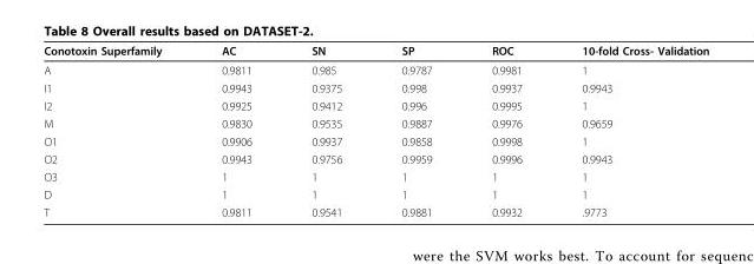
<table><thead><tr><td>Conotoxin Superfamily</td><td>AC</td><td>SN</td><td>SP</td><td>ROC</td><td>10-fold Cross- Validation</td></tr></thead><tbody><tr><td>A</td><td>0.9811</td><td>0.985</td><td>0.9787</td><td>0.9981</td><td>1</td></tr><tr><td>I1</td><td>0.9943</td><td>0.9375</td><td>0.998</td><td>0.9937</td><td>0.9943</td></tr><tr><td>I2</td><td>0.9925</td><td>0.9412</td><td>0.996</td><td>0.9995</td><td>1</td></tr><tr><td>M</td><td>0.9830</td><td>0.9535</td><td>0.9887</td><td>0.9976</td><td>0.9659</td></tr><tr><td>O1</td><td>0.9906</td><td>0.9937</td><td>0.9858</td><td>0.9998</td><td>1</td></tr><tr><td>O2</td><td>0.9943</td><td>0.9756</td><td>0.9959</td><td>0.9996</td><td>0.9943</td></tr><tr><td>O3</td><td>1</td><td>1</td><td>1</td><td>1</td><td>1</td></tr><tr><td>D</td><td>1</td><td>1</td><td>1</td><td>1</td><td>1</td></tr><tr><td>T</td><td>0.9811</td><td>0.9541</td><td>0.9881</td><td>0.9932</td><td>.9773</td></tr></tbody></table>